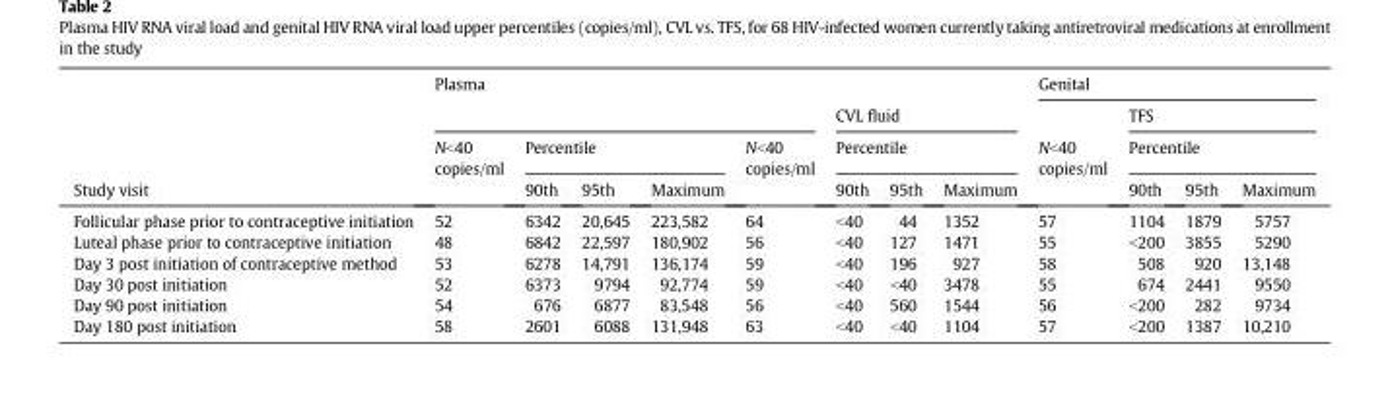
<table><thead><tr><td rowspan="4">Study visit</td><td rowspan="2" colspan="5">Plasma</td><td></td><td></td><td></td><td colspan="4">Genital</td></tr><tr><td rowspan="2" colspan="3">CVL fluid Percentile</td><td rowspan="3">N&lt;40 copies/ml</td><td rowspan="2" colspan="3">TFS Percentile</td></tr><tr><td rowspan="2">N&lt;40 copies/ml</td><td colspan="3">Percentile</td><td rowspan="2">N&lt;40 copies/ml</td></tr><tr><td>90th</td><td>95th</td><td>Maximum</td><td>90th</td><td>95th</td><td>Maximum</td><td>90th</td><td>95th</td><td>Maximum</td></tr></thead><tbody><tr><td>Follicular phase prior to contraceptive initiation</td><td>52</td><td>6342</td><td>20,645</td><td>223,582</td><td>64</td><td>&lt;40</td><td>44</td><td>1352</td><td>57</td><td>1104</td><td>1879</td><td>5757</td></tr><tr><td>Luteal phase prior to contraceptive initiation</td><td>48</td><td>6842</td><td>22,597</td><td>180,902</td><td>56</td><td>&lt;40</td><td>127</td><td>1471</td><td>55</td><td>&lt;200</td><td>3855</td><td>5290</td></tr><tr><td>Day 3 post initiation of contraceptive method</td><td>53</td><td>6278</td><td>14,791</td><td>136,174</td><td>59</td><td>&lt;40</td><td>196</td><td>927</td><td>58</td><td>508</td><td>920</td><td>13,148</td></tr><tr><td>Day 30 post initiation</td><td>52</td><td>6373</td><td>9794</td><td>92,774</td><td>59</td><td>&lt;40</td><td>&lt;40</td><td>3478</td><td>55</td><td>674</td><td>2441</td><td>9550</td></tr><tr><td>Day 90 post initiation</td><td>54</td><td>676</td><td>6877</td><td>83,548</td><td>56</td><td>&lt;40</td><td>560</td><td>1544</td><td>56</td><td>&lt;200</td><td>282</td><td>9734</td></tr><tr><td>Day 180 post initiation</td><td>58</td><td>2601</td><td>6088</td><td>131,948</td><td>63</td><td>&lt;40</td><td>&lt;40</td><td>1104</td><td>57</td><td>&lt;200</td><td>1387</td><td>10,210</td></tr></tbody></table>